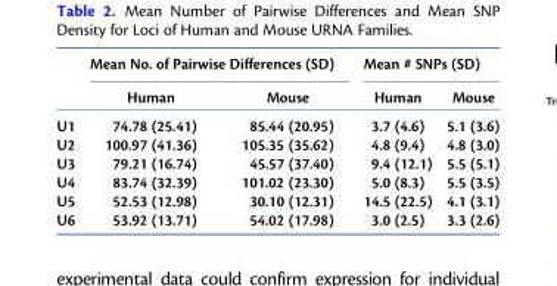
<table><thead><tr><td rowspan="2"></td><td colspan="2">Mean No. of Pairwise Differences (SD)</td><td colspan="2">Mean # SNPs (SD)</td></tr><tr><td>Human</td><td>Mouse</td><td>Human</td><td>Mouse</td></tr></thead><tbody><tr><td>U1</td><td>74.78 (25.41)</td><td>85.44 (20.95)</td><td>3.7 (4.6)</td><td>5.1 (3.6)</td></tr><tr><td>U2</td><td>100.97 (41.36)</td><td>105.35 (35.62)</td><td>4.8 (9.4)</td><td>4.8 (3.0)</td></tr><tr><td>U3</td><td>79.21 (16.74)</td><td>45.57 (37.40)</td><td>9.4 (12.1)</td><td>5.5 (5.1)</td></tr><tr><td>U4</td><td>83.74 (32.39)</td><td>101.02 (23.30)</td><td>5.0 (8.3)</td><td>5.5 (3.5)</td></tr><tr><td>U5</td><td>52.53 (12.98)</td><td>30.10 (12.31)</td><td>14.5 (22.5)</td><td>4.1 (3.1)</td></tr><tr><td>U6</td><td>53.92 (13.71)</td><td>54.02 (17.98)</td><td>3.0 (2.5)</td><td>3.3 (2.6)</td></tr></tbody></table>